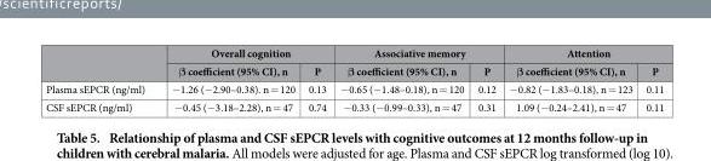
<table><thead><tr><td rowspan="2"></td><td colspan="2">Overall cognition</td><td colspan="2">Associative memory</td><td colspan="2">Attention</td></tr><tr><td>β coefficient (95% CI), n</td><td>P</td><td>β coefficient (95% CI), n</td><td>P</td><td>β coefficient (95% CI), n</td><td>P</td></tr></thead><tbody><tr><td>Plasma sEPCR (ng/ml)</td><td>− 1.26 (− 2.90–0.38). n = 120</td><td>0.13</td><td>− 0.65 (− 1.48–0.18), n = 120</td><td>0.12</td><td>− 0.82 (− 1.83–0.18), n = 123</td><td>0.11</td></tr><tr><td>CSF sEPCR (ng/ml)</td><td>− 0.45 (− 3.18–2.28), n = 47</td><td>0.74</td><td>− 0.33 (− 0.99–0.33), n = 47</td><td>0.31</td><td>1.09 (− 0.24–2.41), n = 47</td><td>0.11</td></tr></tbody></table>